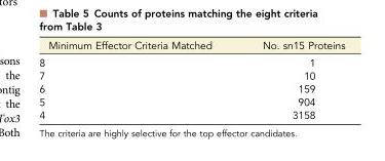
<table><thead><tr><td>Minimum Effector Criteria Matched</td><td>No. sn15 Proteins</td></tr></thead><tbody><tr><td>8</td><td>1</td></tr><tr><td>7</td><td>10</td></tr><tr><td>6</td><td>159</td></tr><tr><td>5</td><td>904</td></tr><tr><td>4</td><td>3158</td></tr></tbody></table>